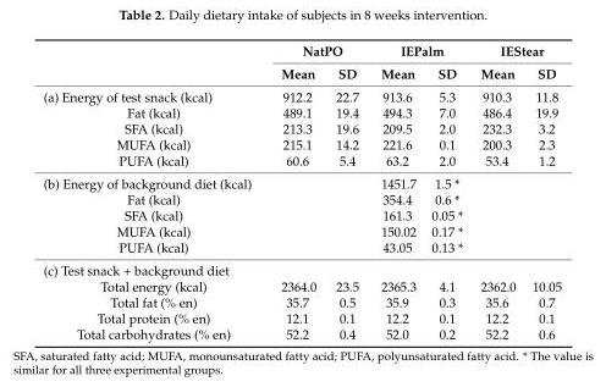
<table><thead><tr><td rowspan="2"></td><td colspan="2">NatPO</td><td colspan="2">IEPalm</td><td colspan="2">IEStear</td></tr><tr><td>Mean</td><td>SD</td><td>Mean</td><td>SD</td><td>Mean</td><td>SD</td></tr></thead><tbody><tr><td>(a) Energy of test snack (kcal)</td><td>912.2</td><td>22.7</td><td>913.6</td><td>5.3</td><td>910.3</td><td>11.8</td></tr><tr><td>Fat (kcal)</td><td>489.1</td><td>19.4</td><td>494.3</td><td>7.0</td><td>486.4</td><td>19.9</td></tr><tr><td>SFA (kcal)</td><td>213.3</td><td>19.6</td><td>209.5</td><td>2.0</td><td>232.3</td><td>3.2</td></tr><tr><td>MUFA (kcal)</td><td>215.1</td><td>14.2</td><td>221.6</td><td>0.1</td><td>200.3</td><td>2.3</td></tr><tr><td>PUFA (kcal)</td><td>60.6</td><td>5.4</td><td>63.2</td><td>2.0</td><td>53.4</td><td>1.2</td></tr><tr><td>(b) Energy of background diet (kcal)</td><td></td><td></td><td>1451.7</td><td>1.5 *</td><td></td><td></td></tr><tr><td>Fat (kcal)</td><td></td><td></td><td>354.4</td><td>0.6 *</td><td></td><td></td></tr><tr><td>SFA (kcal)</td><td></td><td></td><td>161.3</td><td>0.05 *</td><td></td><td></td></tr><tr><td>MUFA (kcal)</td><td></td><td></td><td>150.02</td><td>0.17 *</td><td></td><td></td></tr><tr><td>PUFA (kcal)</td><td></td><td></td><td>43.05</td><td>0.13 *</td><td></td><td></td></tr><tr><td colspan="7">(c) Test snack + background diet</td></tr><tr><td>Total energy (kcal)</td><td>2364.0</td><td>23.5</td><td>2365.3</td><td>4.1</td><td>2362.0</td><td>10.05</td></tr><tr><td>Total fat (% en)</td><td>35.7</td><td>0.5</td><td>35.9</td><td>0.3</td><td>35.6</td><td>0.7</td></tr><tr><td>Total protein (% en)</td><td>12.1</td><td>0.1</td><td>12.2</td><td>0.1</td><td>12.2</td><td>0.1</td></tr><tr><td>Total carbohydrates (% en)</td><td>52.2</td><td>0.4</td><td>52.0</td><td>0.2</td><td>52.2</td><td>0.6</td></tr></tbody></table>